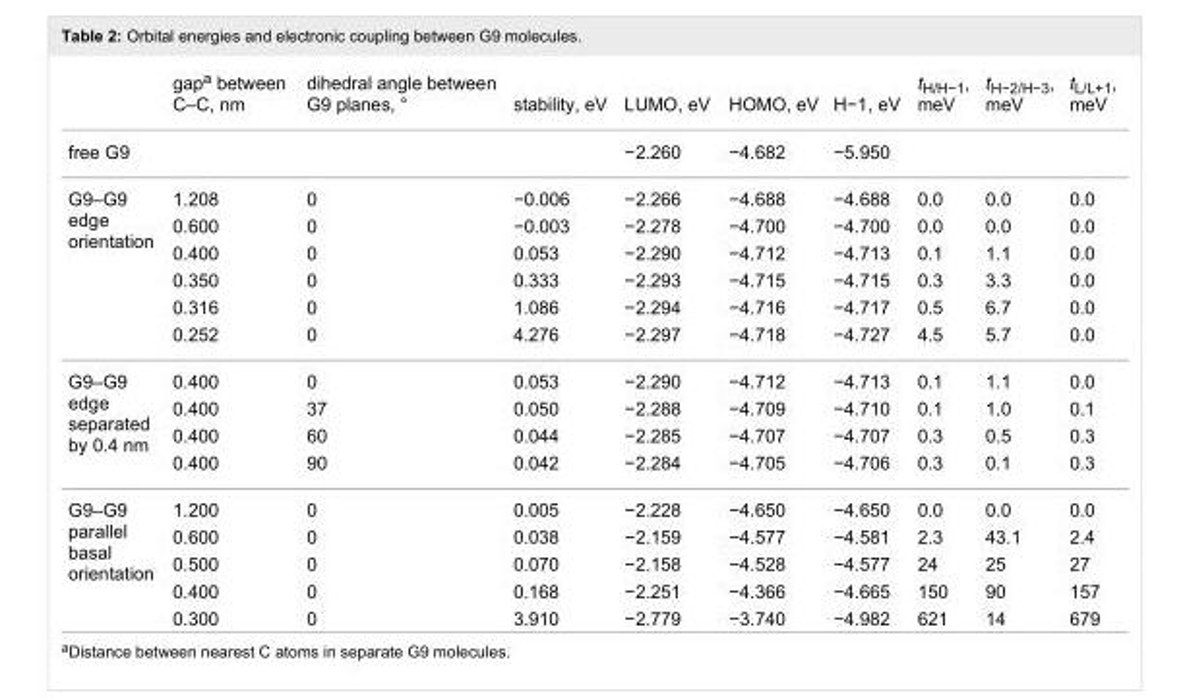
<table><thead><tr><td></td><td>gap<sup>a</sup> between C–C, nm</td><td>dihedral angle between G9 planes, °</td><td>stability, eV</td><td>LUMO, eV</td><td>HOMO, eV</td><td>H−1, eV</td><td>t<sub>H/H−1</sub>, meV</td><td>t<sub>H−2/H−3</sub>, meV</td><td>t<sub>L/L+1</sub>, meV</td></tr></thead><tbody><tr><td>free G9</td><td></td><td></td><td></td><td>−2.260</td><td>−4.682</td><td>−5.950</td><td></td><td></td><td></td></tr><tr><td rowspan="6">G9–G9 edge orientation</td><td>1.208</td><td>0</td><td>−0.006</td><td>−2.266</td><td>−4.688</td><td>−4.688</td><td>0.0</td><td>0.0</td><td>0.0</td></tr><tr><td>0.600</td><td>0</td><td>−0.003</td><td>−2.278</td><td>−4.700</td><td>−4.700</td><td>0.0</td><td>0.0</td><td>0.0</td></tr><tr><td>0.400</td><td>0</td><td>0.053</td><td>−2.290</td><td>−4.712</td><td>−4.713</td><td>0.1</td><td>1.1</td><td>0.0</td></tr><tr><td>0.350</td><td>0</td><td>0.333</td><td>−2.293</td><td>−4.715</td><td>−4.715</td><td>0.3</td><td>3.3</td><td>0.0</td></tr><tr><td>0.316</td><td>0</td><td>1.086</td><td>−2.294</td><td>−4.716</td><td>−4.717</td><td>0.5</td><td>6.7</td><td>0.0</td></tr><tr><td>0.252</td><td>0</td><td>4.276</td><td>−2.297</td><td>−4.718</td><td>−4.727</td><td>4.5</td><td>5.7</td><td>0.0</td></tr><tr><td rowspan="4">G9–G9 edge separated by 0.4 nm</td><td>0.400</td><td>0</td><td>0.053</td><td>−2.290</td><td>−4.712</td><td>−4.713</td><td>0.1</td><td>1.1</td><td>0.0</td></tr><tr><td>0.400</td><td>37</td><td>0.050</td><td>−2.288</td><td>−4.709</td><td>−4.710</td><td>0.1</td><td>1.0</td><td>0.1</td></tr><tr><td>0.400</td><td>60</td><td>0.044</td><td>−2.285</td><td>−4.707</td><td>−4.707</td><td>0.3</td><td>0.5</td><td>0.3</td></tr><tr><td>0.400</td><td>90</td><td>0.042</td><td>−2.284</td><td>−4.705</td><td>−4.706</td><td>0.3</td><td>0.1</td><td>0.3</td></tr><tr><td rowspan="5">G9–G9 parallel basal orientation</td><td>1.200</td><td>0</td><td>0.005</td><td>−2.228</td><td>−4.650</td><td>−4.650</td><td>0.0</td><td>0.0</td><td>0.0</td></tr><tr><td>0.600</td><td>0</td><td>0.038</td><td>−2.159</td><td>−4.577</td><td>−4.581</td><td>2.3</td><td>43.1</td><td>2.4</td></tr><tr><td>0.500</td><td>0</td><td>0.070</td><td>−2.158</td><td>−4.528</td><td>−4.577</td><td>24</td><td>25</td><td>27</td></tr><tr><td>0.400</td><td>0</td><td>0.168</td><td>−2.251</td><td>−4.366</td><td>−4.665</td><td>150</td><td>90</td><td>157</td></tr><tr><td>0.300</td><td>0</td><td>3.910</td><td>−2.779</td><td>−3.740</td><td>−4.982</td><td>621</td><td>14</td><td>679</td></tr></tbody></table>